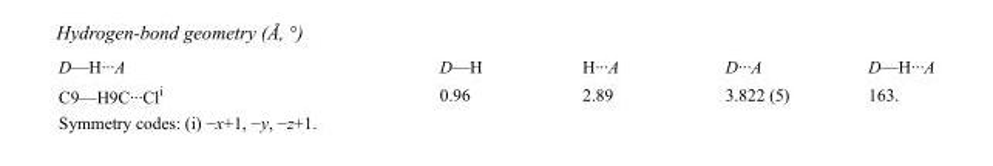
<table><tbody><tr><td>D—H···A</td><td>D—H</td><td>H···A</td><td>D···A</td><td>D—H···A</td></tr><tr><td>C9—H9C···Cl<sup>i</sup></td><td>0.96</td><td>2.89</td><td>3.822 (5)</td><td>163.</td></tr></tbody></table>